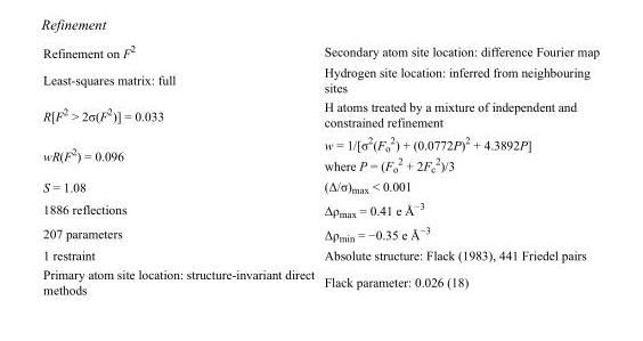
<table><tbody><tr><td>Refinement on F<sup>2</sup></td><td>Secondary atom site location: difference Fourier map</td></tr><tr><td>Least-squares matrix: full</td><td>Hydrogen site location: inferred from neighbouring sites</td></tr><tr><td>R[F<sup>2</sup> &gt; 2σ(F<sup>2</sup>)] = 0.033</td><td>H atoms treated by a mixture of independent and constrained refinement</td></tr><tr><td>wR(F<sup>2</sup>) = 0.096</td><td>w = 1/[σ<sup>2</sup>(F<sub>o</sub> <sup>2</sup>) + (0.0772P)<sup>2</sup> + 4.3892P] where P = (F<sub>o</sub> <sup>2</sup> + 2F<sub>c</sub> <sup>2</sup>)/3</td></tr><tr><td>S = 1.08</td><td>(Δ/σ)<sub>max</sub> &lt; 0.001</td></tr><tr><td>1886 reflections</td><td>Δρ<sub>max</sub> = 0.41 e Å<sup>−3</sup></td></tr><tr><td>207 parameters</td><td>Δρ<sub>min</sub> = −0.35 e Å<sup>−3</sup></td></tr><tr><td>1 restraint</td><td>Absolute structure: Flack (1983), 441 Friedel pairs</td></tr><tr><td>Primary atom site location: structure-invariant direct methods</td><td>Flack parameter: 0.026 (18)</td></tr></tbody></table>